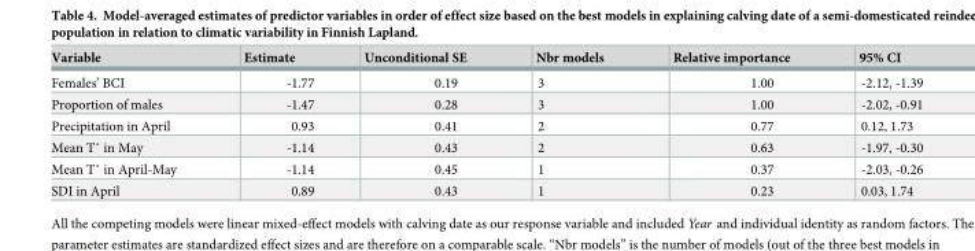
<table><thead><tr><td>Variable</td><td>Estimate</td><td>Unconditional SE</td><td>Nbr models</td><td>Relative importance</td><td>95% CI</td></tr></thead><tbody><tr><td>Females’ BCI</td><td>-1.77</td><td>0.19</td><td>3</td><td>1.00</td><td>-2.12, -1.39</td></tr><tr><td>Proportion of males</td><td>-1.47</td><td>0.28</td><td>3</td><td>1.00</td><td>-2.02, -0.91</td></tr><tr><td>Precipitation in April</td><td>0.93</td><td>0.41</td><td>2</td><td>0.77</td><td>0.12, 1.73</td></tr><tr><td>Mean T˚ in May</td><td>-1.14</td><td>0.43</td><td>2</td><td>0.63</td><td>-1.97, -0.30</td></tr><tr><td>Mean T˚ in April-May</td><td>-1.14</td><td>0.45</td><td>1</td><td>0.37</td><td>-2.03, -0.26</td></tr><tr><td>SDI in April</td><td>0.89</td><td>0.43</td><td>1</td><td>0.23</td><td>0.03, 1.74</td></tr></tbody></table>